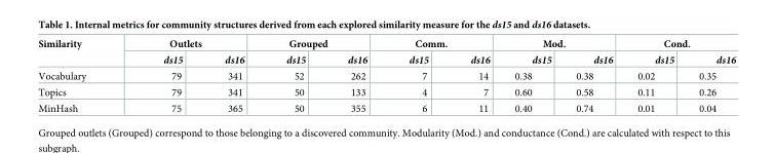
<table><thead><tr><td rowspan="2">Similarity</td><td colspan="2">Outlets</td><td colspan="2">Grouped</td><td colspan="2">Comm.</td><td colspan="2">Mod.</td><td colspan="2">Cond.</td></tr><tr><td>ds15</td><td>ds16</td><td>ds15</td><td>ds16</td><td>ds15</td><td>ds16</td><td>ds15</td><td>ds16</td><td>ds15</td><td>ds16</td></tr></thead><tbody><tr><td>Vocabulary</td><td>79</td><td>341</td><td>52</td><td>262</td><td>7</td><td>14</td><td>0.38</td><td>0.38</td><td>0.02</td><td>0.35</td></tr><tr><td>Topics</td><td>79</td><td>341</td><td>50</td><td>133</td><td>4</td><td>7</td><td>0.60</td><td>0.58</td><td>0.11</td><td>0.26</td></tr><tr><td>MinHash</td><td>75</td><td>365</td><td>50</td><td>355</td><td>6</td><td>11</td><td>0.40</td><td>0.74</td><td>0.01</td><td>0.04</td></tr></tbody></table>